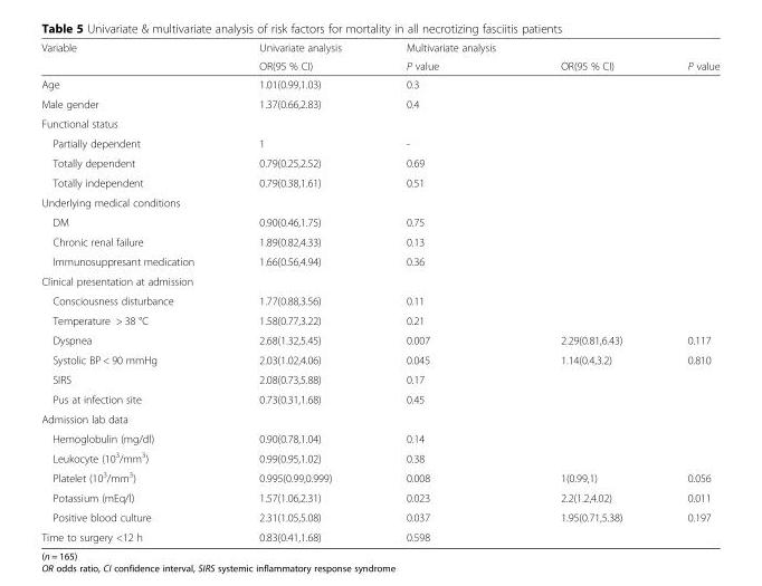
<table><thead><tr><td rowspan="2">Variable</td><td rowspan="2">Univariate analysis OR(95 % CI)</td><td rowspan="2">Multivariate analysis P value</td><td rowspan="2">OR(95 % CI)</td><td rowspan="2">P value</td></tr><tr></tr></thead><tbody><tr><td>Age</td><td>1.01(0.99,1.03)</td><td>0.3</td><td></td><td></td></tr><tr><td>Male gender</td><td>1.37(0.66,2.83)</td><td>0.4</td><td></td><td></td></tr><tr><td colspan="5">Functional status</td></tr><tr><td>Partially dependent</td><td>1</td><td>-</td><td></td><td></td></tr><tr><td>Totally dependent</td><td>0.79(0.25,2.52)</td><td>0.69</td><td></td><td></td></tr><tr><td>Totally independent</td><td>0.79(0.38,1.61)</td><td>0.51</td><td></td><td></td></tr><tr><td colspan="5">Underlying medical conditions</td></tr><tr><td>DM</td><td>0.90(0.46,1.75)</td><td>0.75</td><td></td><td></td></tr><tr><td>Chronic renal failure</td><td>1.89(0.82,4.33)</td><td>0.13</td><td></td><td></td></tr><tr><td>Immunosuppresant medication</td><td>1.66(0.56,4.94)</td><td>0.36</td><td></td><td></td></tr><tr><td colspan="5">Clinical presentation at admission</td></tr><tr><td>Consciousness disturbance</td><td>1.77(0.88,3.56)</td><td>0.11</td><td></td><td></td></tr><tr><td>Temperature &gt; 38 °C</td><td>1.58(0.77,3.22)</td><td>0.21</td><td></td><td></td></tr><tr><td>Dyspnea</td><td>2.68(1.32,5.45)</td><td>0.007</td><td>2.29(0.81,6.43)</td><td>0.117</td></tr><tr><td>Systolic BP &lt; 90 mmHg</td><td>2.03(1.02,4.06)</td><td>0.045</td><td>1.14(0.4,3.2)</td><td>0.810</td></tr><tr><td>SIRS</td><td>2.08(0.73,5.88)</td><td>0.17</td><td></td><td></td></tr><tr><td>Pus at infection site</td><td>0.73(0.31,1.68)</td><td>0.45</td><td></td><td></td></tr><tr><td colspan="5">Admission lab data</td></tr><tr><td>Hemoglobulin (mg/dl)</td><td>0.90(0.78,1.04)</td><td>0.14</td><td></td><td></td></tr><tr><td>Leukocyte (10<sup>3</sup>/mm<sup>3</sup>)</td><td>0.99(0.95,1.02)</td><td>0.38</td><td></td><td></td></tr><tr><td>Platelet (10<sup>3</sup>/mm<sup>3</sup>)</td><td>0.995(0.99,0.999)</td><td>0.008</td><td>1(0.99,1)</td><td>0.056</td></tr><tr><td>Potassium (mEq/l)</td><td>1.57(1.06,2.31)</td><td>0.023</td><td>2.2(1.2,4.02)</td><td>0.011</td></tr><tr><td>Positive blood culture</td><td>2.31(1.05,5.08)</td><td>0.037</td><td>1.95(0.71,5.38)</td><td>0.197</td></tr><tr><td>Time to surgery &lt;12 h</td><td>0.83(0.41,1.68)</td><td>0.598</td><td></td><td></td></tr></tbody></table>